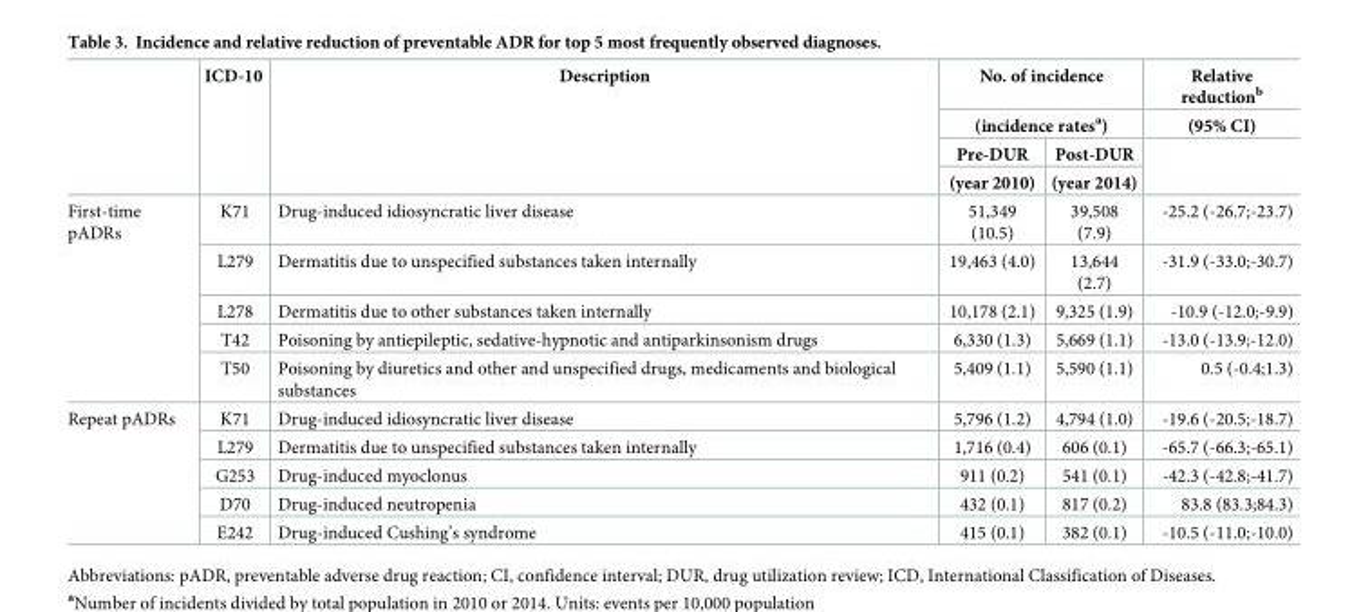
<table><thead><tr><td rowspan="4"></td><td rowspan="4">ICD-10</td><td rowspan="4">Description</td><td rowspan="2" colspan="2">No. of incidence (incidence rates<sup>a</sup>)</td><td rowspan="4">Relative reduction<sup>b</sup> (95% CI)</td></tr><tr></tr><tr><td rowspan="2">Pre-DUR (year 2010)</td><td rowspan="2">Post-DUR (year 2014)</td></tr><tr></tr></thead><tbody><tr><td rowspan="5">First-time pADRs</td><td>K71</td><td>Drug-induced idiosyncratic liver disease</td><td>51,349 (10.5)</td><td>39,508 (7.9)</td><td>-25.2 (-26.7;-23.7)</td></tr><tr><td>L279</td><td>Dermatitis due to unspecified substances taken internally</td><td>19,463 (4.0)</td><td>13,644 (2.7)</td><td>-31.9 (-33.0;-30.7)</td></tr><tr><td>L278</td><td>Dermatitis due to other substances taken internally</td><td>10,178 (2.1)</td><td>9,325 (1.9)</td><td>-10.9 (-12.0;-9.9)</td></tr><tr><td>T42</td><td>Poisoning by antiepileptic, sedative-hypnotic and antiparkinsonism drugs</td><td>6,330 (1.3)</td><td>5,669 (1.1)</td><td>-13.0 (-13.9;-12.0)</td></tr><tr><td>T50</td><td>Poisoning by diuretics and other and unspecified drugs, medicaments and biological substances</td><td>5,409 (1.1)</td><td>5,590 (1.1)</td><td>0.5 (-0.4;1.3)</td></tr><tr><td rowspan="5">Repeat pADRs</td><td>K71</td><td>Drug-induced idiosyncratic liver disease</td><td>5,796 (1.2)</td><td>4,794 (1.0)</td><td>-19.6 (-20.5;-18.7)</td></tr><tr><td>L279</td><td>Dermatitis due to unspecified substances taken internally</td><td>1,716 (0.4)</td><td>606 (0.1)</td><td>-65.7 (-66.3;-65.1)</td></tr><tr><td>G253</td><td>Drug-induced myoclonus</td><td>911 (0.2)</td><td>541 (0.1)</td><td>-42.3 (-42.8;-41.7)</td></tr><tr><td>D70</td><td>Drug-induced neutropenia</td><td>432 (0.1)</td><td>817 (0.2)</td><td>83.8 (83.3;84.3)</td></tr><tr><td>E242</td><td>Drug-induced Cushing’s syndrome</td><td>415 (0.1)</td><td>382 (0.1)</td><td>-10.5 (-11.0;-10.0)</td></tr></tbody></table>